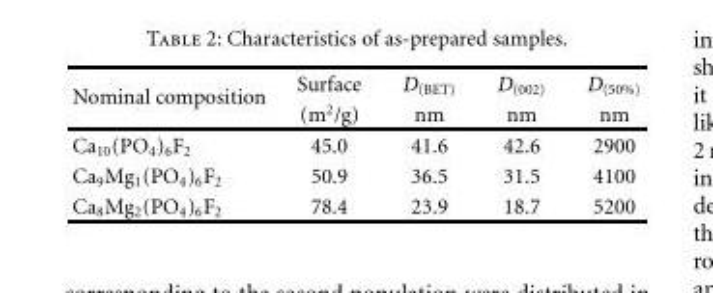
<table><thead><tr><td rowspan="2">Nominal composition</td><td rowspan="2">Surface (m<sup>2</sup>/g)</td><td rowspan="2">D<sub>(BET)</sub> nm</td><td rowspan="2">D<sub>(002)</sub> nm</td><td rowspan="2">D<sub>(50%)</sub> nm</td></tr><tr></tr></thead><tbody><tr><td>Ca<sub>10</sub>(PO<sub>4</sub>)<sub>6</sub>F<sub>2</sub></td><td>45.0</td><td>41.6</td><td>42.6</td><td>2900</td></tr><tr><td>Ca<sub>9</sub>Mg<sub>1</sub>(PO<sub>4</sub>)<sub>6</sub>F<sub>2</sub></td><td>50.9</td><td>36.5</td><td>31.5</td><td>4100</td></tr><tr><td>Ca<sub>8</sub>Mg<sub>2</sub>(PO<sub>4</sub>)<sub>6</sub>F<sub>2</sub></td><td>78.4</td><td>23.9</td><td>18.7</td><td>5200</td></tr></tbody></table>